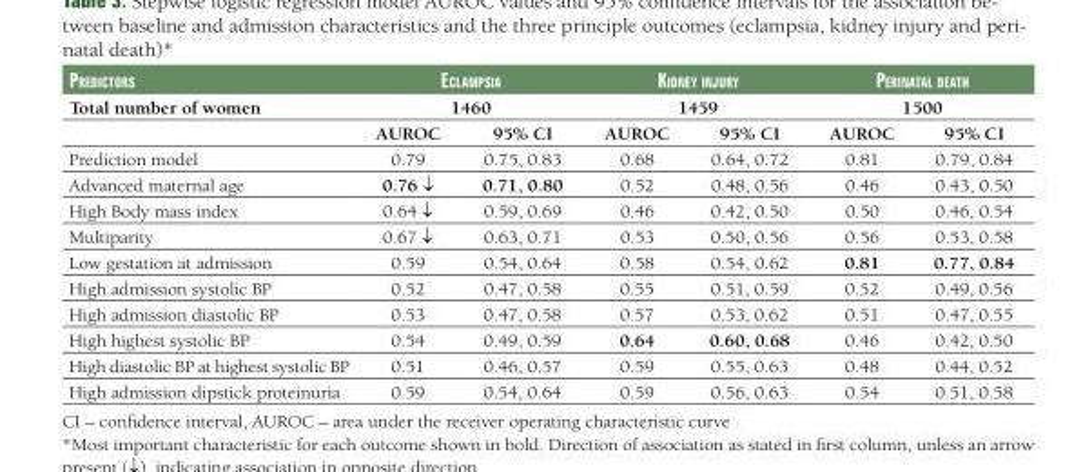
<table><thead><tr><td rowspan="3">predictors Total number of women</td><td rowspan="2" colspan="2">eclAmpsiA 1460</td><td rowspan="2" colspan="2">Kidney injury 1459</td><td rowspan="2" colspan="2">perinAtAl deAth 1500</td></tr><tr></tr><tr><td>AUROC</td><td>95% CI</td><td>AUROC</td><td>95% CI</td><td>AUROC</td><td>95% CI</td></tr></thead><tbody><tr><td>Prediction model</td><td>0.79</td><td>0.75, 0.83</td><td>0.68</td><td>0.64, 0.72</td><td>0.81</td><td>0.79, 0.84</td></tr><tr><td>Advanced maternal age</td><td>0.76 ↓</td><td>0.71, 0.80</td><td>0.52</td><td>0.48, 0.56</td><td>0.46</td><td>0.43, 0.50</td></tr><tr><td>High Body mass index</td><td>0.64 ↓</td><td>0.59, 0.69</td><td>0.46</td><td>0.42, 0.50</td><td>0.50</td><td>0.46, 0.54</td></tr><tr><td>Multiparity</td><td>0.67 ↓</td><td>0.63, 0.71</td><td>0.53</td><td>0.50, 0.56</td><td>0.56</td><td>0.53, 0.58</td></tr><tr><td>Low gestation at admission</td><td>0.59</td><td>0.54, 0.64</td><td>0.58</td><td>0.54, 0.62</td><td>0.81</td><td>0.77, 0.84</td></tr><tr><td>High admission systolic BP</td><td>0.52</td><td>0.47, 0.58</td><td>0.55</td><td>0.51, 0.59</td><td>0.52</td><td>0.49, 0.56</td></tr><tr><td>High admission diastolic BP</td><td>0.53</td><td>0.47, 0.58</td><td>0.57</td><td>0.53, 0.62</td><td>0.51</td><td>0.47, 0.55</td></tr><tr><td>High highest systolic BP</td><td>0.54</td><td>0.49, 0.59</td><td>0.64</td><td>0.60, 0.68</td><td>0.46</td><td>0.42, 0.50</td></tr><tr><td>High diastolic BP at highest systolic BP</td><td>0.51</td><td>0.46, 0.57</td><td>0.59</td><td>0.55, 0.63</td><td>0.48</td><td>0.44, 0.52</td></tr><tr><td>High admission dipstick proteinuria</td><td>0.59</td><td>0.54, 0.64</td><td>0.59</td><td>0.56, 0.63</td><td>0.54</td><td>0.51, 0.58</td></tr></tbody></table>